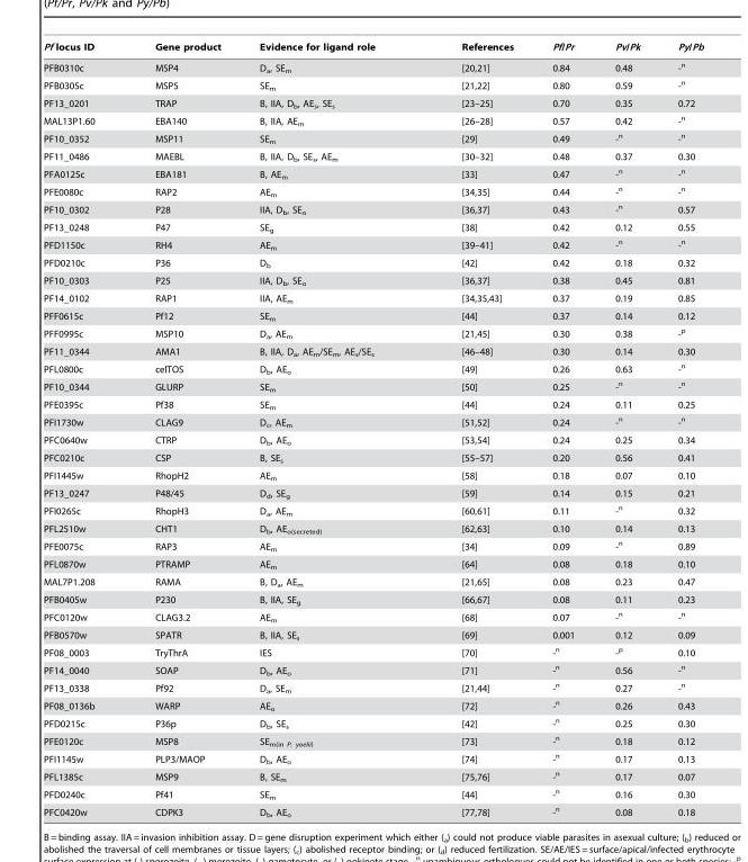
<table><thead><tr><td>Pf locus ID</td><td>Gene product</td><td>Evidence for ligand role</td><td>References</td><td>Pf/Pr</td><td>Pv/Pk</td><td>Py/Pb</td></tr></thead><tbody><tr><td>PFB0310c</td><td>MSP4</td><td>D<sub>a</sub>, SE<sub>m</sub></td><td>[20,21]</td><td>0.84</td><td>0.48</td><td>-<sup>n</sup></td></tr><tr><td>PFB0305c</td><td>MSP5</td><td>SE<sub>m</sub></td><td>[21,22]</td><td>0.80</td><td>0.59</td><td>-<sup>n</sup></td></tr><tr><td>PF13_0201</td><td>TRAP</td><td>B, IIA, D<sub>b</sub>, AE<sub>s</sub>, SE<sub>s</sub></td><td>[23–25]</td><td>0.70</td><td>0.35</td><td>0.72</td></tr><tr><td>MAL13P1.60</td><td>EBA140</td><td>B, IIA, AE<sub>m</sub></td><td>[26–28]</td><td>0.57</td><td>0.42</td><td>-<sup>n</sup></td></tr><tr><td>PF10_0352</td><td>MSP11</td><td>SE<sub>m</sub></td><td>[29]</td><td>0.49</td><td>-<sup>n</sup></td><td>-<sup>n</sup></td></tr><tr><td>PF11_0486</td><td>MAEBL</td><td>B, IIA, D<sub>b</sub>, SE<sub>s</sub>, AE<sub>m</sub></td><td>[30–32]</td><td>0.48</td><td>0.37</td><td>0.30</td></tr><tr><td>PFA0125c</td><td>EBA181</td><td>B, AE<sub>m</sub></td><td>[33]</td><td>0.47</td><td>-<sup>n</sup></td><td>-<sup>n</sup></td></tr><tr><td>PFE0080c</td><td>RAP2</td><td>AE<sub>m</sub></td><td>[34,35]</td><td>0.44</td><td>-<sup>n</sup></td><td>-<sup>n</sup></td></tr><tr><td>PF10_0302</td><td>P28</td><td>IIA, D<sub>b</sub>, SE<sub>o</sub></td><td>[36,37]</td><td>0.43</td><td>-<sup>n</sup></td><td>0.57</td></tr><tr><td>PF13_0248</td><td>P47</td><td>SE<sub>g</sub></td><td>[38]</td><td>0.42</td><td>0.12</td><td>0.55</td></tr><tr><td>PFD1150c</td><td>RH4</td><td>AE<sub>m</sub></td><td>[39–41]</td><td>0.42</td><td>-<sup>n</sup></td><td>-<sup>n</sup></td></tr><tr><td>PFD0210c</td><td>P36</td><td>D<sub>b</sub></td><td>[42]</td><td>0.42</td><td>0.18</td><td>0.32</td></tr><tr><td>PF10_0303</td><td>P25</td><td>IIA, D<sub>b</sub>, SE<sub>o</sub></td><td>[36,37]</td><td>0.38</td><td>0.45</td><td>0.81</td></tr><tr><td>PF14_0102</td><td>RAP1</td><td>IIA, AE<sub>m</sub></td><td>[34,35,43]</td><td>0.37</td><td>0.19</td><td>0.85</td></tr><tr><td>PFF0615c</td><td>Pf12</td><td>SE<sub>m</sub></td><td>[44]</td><td>0.37</td><td>0.14</td><td>0.12</td></tr><tr><td>PFF0995c</td><td>MSP10</td><td>D<sub>a</sub>, AE<sub>m</sub></td><td>[21,45]</td><td>0.30</td><td>0.38</td><td>-<sup>p</sup></td></tr><tr><td>PF11_0344</td><td>AMA1</td><td>B, IIA, D<sub>a</sub>, AE<sub>m</sub>/SE<sub>m</sub>, AE<sub>s</sub>/SE<sub>s</sub></td><td>[46–48]</td><td>0.30</td><td>0.14</td><td>0.30</td></tr><tr><td>PFL0800c</td><td>celTOS</td><td>D<sub>b</sub>, AE<sub>o</sub></td><td>[49]</td><td>0.26</td><td>0.63</td><td>-<sup>n</sup></td></tr><tr><td>PF10_0344</td><td>GLURP</td><td>SE<sub>m</sub></td><td>[50]</td><td>0.25</td><td>-<sup>n</sup></td><td>-<sup>n</sup></td></tr><tr><td>PFE0395c</td><td>Pf38</td><td>SE<sub>m</sub></td><td>[44]</td><td>0.24</td><td>0.11</td><td>0.25</td></tr><tr><td>PFI1730w</td><td>CLAG9</td><td>D<sub>c</sub>, AE<sub>m</sub></td><td>[51,52]</td><td>0.24</td><td>-<sup>n</sup></td><td>-<sup>n</sup></td></tr><tr><td>PFC0640w</td><td>CTRP</td><td>D<sub>b</sub>, AE<sub>o</sub></td><td>[53,54]</td><td>0.24</td><td>0.25</td><td>0.34</td></tr><tr><td>PFC0210c</td><td>CSP</td><td>B, SE<sub>s</sub></td><td>[55–57]</td><td>0.20</td><td>0.56</td><td>0.41</td></tr><tr><td>PFI1445w</td><td>RhopH2</td><td>AE<sub>m</sub></td><td>[58]</td><td>0.18</td><td>0.07</td><td>0.10</td></tr><tr><td>PF13_0247</td><td>P48/45</td><td>D<sub>d</sub>, SE<sub>g</sub></td><td>[59]</td><td>0.14</td><td>0.15</td><td>0.21</td></tr><tr><td>PFI0265c</td><td>RhopH3</td><td>D<sub>a</sub>, AE<sub>m</sub></td><td>[60,61]</td><td>0.11</td><td>-<sup>n</sup></td><td>0.32</td></tr><tr><td>PFL2510w</td><td>CHT1</td><td>D<sub>b</sub>, AE<sub>o(secreted)</sub></td><td>[62,63]</td><td>0.10</td><td>0.14</td><td>0.13</td></tr><tr><td>PFE0075c</td><td>RAP3</td><td>AE<sub>m</sub></td><td>[34]</td><td>0.09</td><td>-<sup>n</sup></td><td>0.89</td></tr><tr><td>PFL0870w</td><td>PTRAMP</td><td>AE<sub>m</sub></td><td>[64]</td><td>0.08</td><td>0.18</td><td>0.10</td></tr><tr><td>MAL7P1.208</td><td>RAMA</td><td>B, D<sub>a</sub>, AE<sub>m</sub></td><td>[21,65]</td><td>0.08</td><td>0.23</td><td>0.47</td></tr><tr><td>PFB0405w</td><td>P230</td><td>B, IIA, SE<sub>g</sub></td><td>[66,67]</td><td>0.08</td><td>0.11</td><td>0.23</td></tr><tr><td>PFC0120w</td><td>CLAG3.2</td><td>AE<sub>m</sub></td><td>[68]</td><td>0.07</td><td>-<sup>n</sup></td><td>-<sup>n</sup></td></tr><tr><td>PFB0570w</td><td>SPATR</td><td>B, IIA, SE<sub>s</sub></td><td>[69]</td><td>0.001</td><td>0.12</td><td>0.09</td></tr><tr><td>PF08_0003</td><td>TryThrA</td><td>IES</td><td>[70]</td><td>-<sup>n</sup></td><td>-<sup>p</sup></td><td>0.10</td></tr><tr><td>PF14_0040</td><td>SOAP</td><td>D<sub>b</sub>, AE<sub>o</sub></td><td>[71]</td><td>-<sup>n</sup></td><td>0.56</td><td>-<sup>n</sup></td></tr><tr><td>PF13_0338</td><td>Pf92</td><td>D<sub>a</sub>, SE<sub>m</sub></td><td>[21,44]</td><td>-<sup>n</sup></td><td>0.27</td><td>-<sup>n</sup></td></tr><tr><td>PF08_0136b</td><td>WARP</td><td>AE<sub>o</sub></td><td>[72]</td><td>-<sup>n</sup></td><td>0.26</td><td>0.43</td></tr><tr><td>PFD0215c</td><td>P36p</td><td>D<sub>b</sub>, SE<sub>s</sub></td><td>[42]</td><td>-<sup>n</sup></td><td>0.25</td><td>0.30</td></tr><tr><td>PFE0120c</td><td>MSP8</td><td>SE<sub>m(in P. yoelii)</sub></td><td>[73]</td><td>-<sup>n</sup></td><td>0.18</td><td>0.12</td></tr><tr><td>PFI1145w</td><td>PLP3/MAOP</td><td>D<sub>b</sub>, AE<sub>o</sub></td><td>[74]</td><td>-<sup>n</sup></td><td>0.17</td><td>0.13</td></tr><tr><td>PFL1385c</td><td>MSP9</td><td>B, SE<sub>m</sub></td><td>[75,76]</td><td>-<sup>n</sup></td><td>0.17</td><td>0.07</td></tr><tr><td>PFD0240c</td><td>Pf41</td><td>SE<sub>m</sub></td><td>[44]</td><td>-<sup>n</sup></td><td>0.16</td><td>0.30</td></tr><tr><td>PFC0420w</td><td>CDPK3</td><td>D<sub>b</sub>, AE<sub>o</sub></td><td>[77,78]</td><td>-<sup>n</sup></td><td>0.08</td><td>0.18</td></tr></tbody></table>